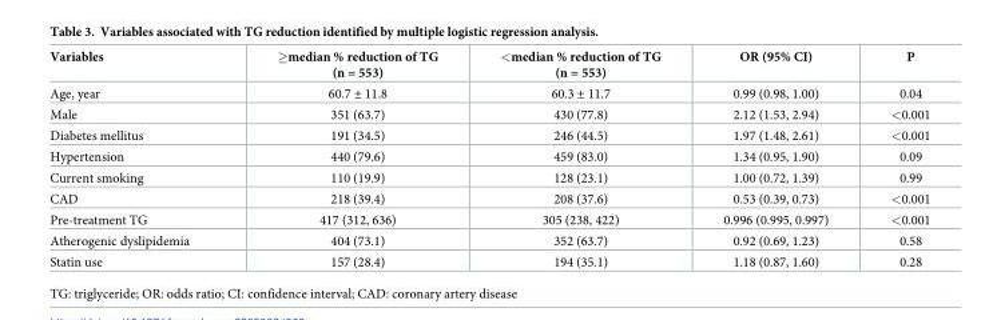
<table><thead><tr><td>Variables</td><td>≥median % reduction of TG (n = 553)</td><td>&lt;median % reduction of TG (n = 553)</td><td>OR (95% CI)</td><td>P</td></tr></thead><tbody><tr><td>Age, year</td><td>60.7 ± 11.8</td><td>60.3 ± 11.7</td><td>0.99 (0.98, 1.00)</td><td>0.04</td></tr><tr><td>Male</td><td>351 (63.7)</td><td>430 (77.8)</td><td>2.12 (1.53, 2.94)</td><td>&lt;0.001</td></tr><tr><td>Diabetes mellitus</td><td>191 (34.5)</td><td>246 (44.5)</td><td>1.97 (1.48, 2.61)</td><td>&lt;0.001</td></tr><tr><td>Hypertension</td><td>440 (79.6)</td><td>459 (83.0)</td><td>1.34 (0.95, 1.90)</td><td>0.09</td></tr><tr><td>Current smoking</td><td>110 (19.9)</td><td>128 (23.1)</td><td>1.00 (0.72, 1.39)</td><td>0.99</td></tr><tr><td>CAD</td><td>218 (39.4)</td><td>208 (37.6)</td><td>0.53 (0.39, 0.73)</td><td>&lt;0.001</td></tr><tr><td>Pre-treatment TG</td><td>417 (312, 636)</td><td>305 (238, 422)</td><td>0.996 (0.995, 0.997)</td><td>&lt;0.001</td></tr><tr><td>Atherogenic dyslipidemia</td><td>404 (73.1)</td><td>352 (63.7)</td><td>0.92 (0.69, 1.23)</td><td>0.58</td></tr><tr><td>Statin use</td><td>157 (28.4)</td><td>194 (35.1)</td><td>1.18 (0.87, 1.60)</td><td>0.28</td></tr></tbody></table>